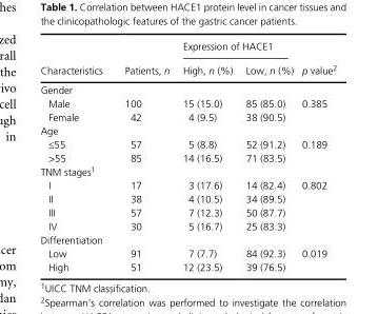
<table><thead><tr><td rowspan="2">Characteristics</td><td rowspan="2">Patients, n</td><td colspan="2">Expression of HACE1</td><td rowspan="2">p value2</td></tr><tr><td>High, n (%)</td><td>Low, n (%)</td></tr></thead><tbody><tr><td colspan="5">Gender</td></tr><tr><td>Male</td><td>100</td><td>15 (15.0)</td><td>85 (85.0)</td><td rowspan="2">0.385</td></tr><tr><td>Female</td><td>42</td><td>4 (9.5)</td><td>38 (90.5)</td></tr><tr><td colspan="5">Age</td></tr><tr><td>≤55</td><td>57</td><td>5 (8.8)</td><td>52 (91.2)</td><td rowspan="2">0.189</td></tr><tr><td>&gt;55</td><td>85</td><td>14 (16.5)</td><td>71 (83.5)</td></tr><tr><td colspan="5">TNM stages1</td></tr><tr><td>I</td><td>17</td><td>3 (17.6)</td><td>14 (82.4)</td><td rowspan="4">0.802</td></tr><tr><td>II</td><td>38</td><td>4 (10.5)</td><td>34 (89.5)</td></tr><tr><td>III</td><td>57</td><td>7 (12.3)</td><td>50 (87.7)</td></tr><tr><td>IV</td><td>30</td><td>5 (16.7)</td><td>25 (83.3)</td></tr><tr><td colspan="5">Differentiation</td></tr><tr><td>Low</td><td>91</td><td>7 (7.7)</td><td>84 (92.3)</td><td rowspan="2">0.019</td></tr><tr><td>High</td><td>51</td><td>12 (23.5)</td><td>39 (76.5)</td></tr></tbody></table>